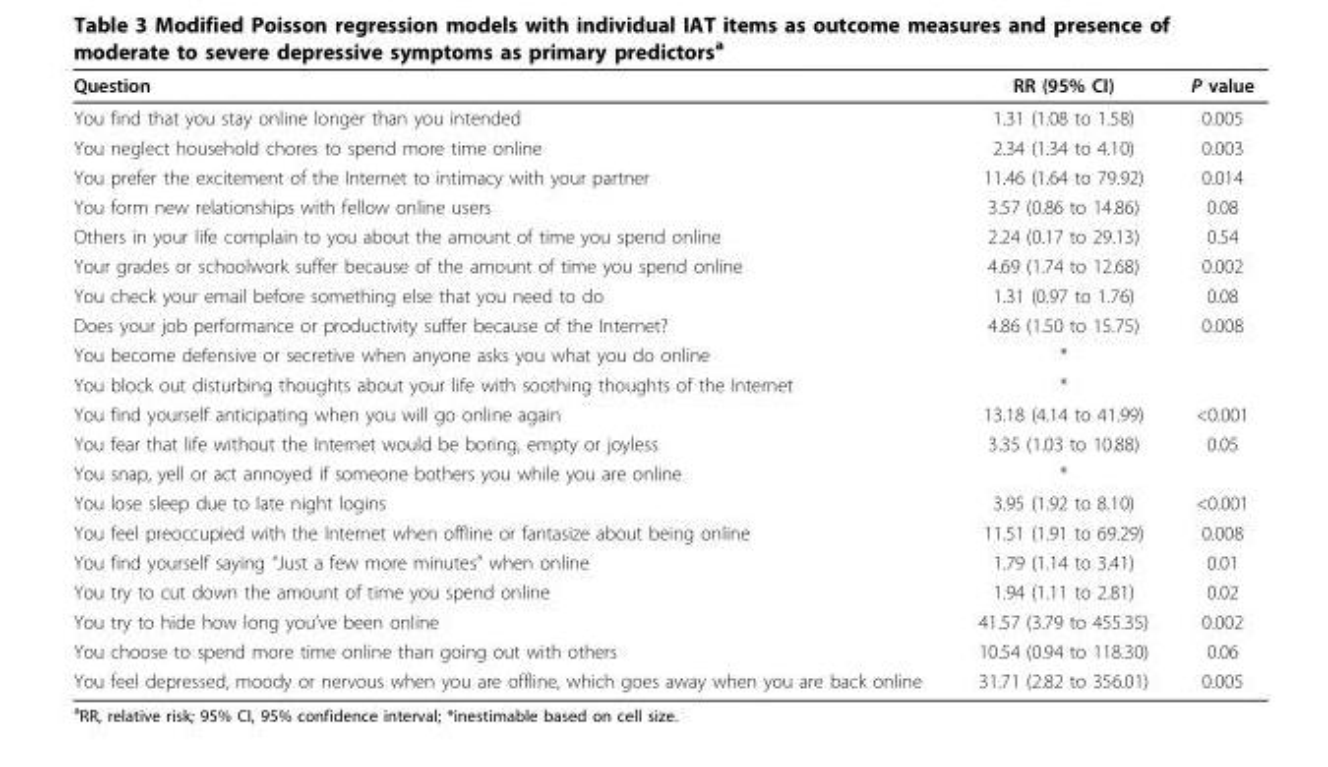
<table><thead><tr><td>Question</td><td>RR (95% CI)</td><td>P value</td></tr></thead><tbody><tr><td>You find that you stay online longer than you intended</td><td>1.31 (1.08 to 1.58)</td><td>0.005</td></tr><tr><td>You neglect household chores to spend more time online</td><td>2.34 (1.34 to 4.10)</td><td>0.003</td></tr><tr><td>You prefer the excitement of the Internet to intimacy with your partner</td><td>11.46 (1.64 to 79.92)</td><td>0.014</td></tr><tr><td>You form new relationships with fellow online users</td><td>3.57 (0.86 to 14.86)</td><td>0.08</td></tr><tr><td>Others in your life complain to you about the amount of time you spend online</td><td>2.24 (0.17 to 29.13)</td><td>0.54</td></tr><tr><td>Your grades or schoolwork suffer because of the amount of time you spend online</td><td>4.69 (1.74 to 12.68)</td><td>0.002</td></tr><tr><td>You check your email before something else that you need to do</td><td>1.31 (0.97 to 1.76)</td><td>0.08</td></tr><tr><td>Does your job performance or productivity suffer because of the Internet?</td><td>4.86 (1.50 to 15.75)</td><td>0.008</td></tr><tr><td>You become defensive or secretive when anyone asks you what you do online</td><td>*</td><td></td></tr><tr><td>You block out disturbing thoughts about your life with soothing thoughts of the Internet</td><td>*</td><td></td></tr><tr><td>You find yourself anticipating when you will go online again</td><td>13.18 (4.14 to 41.99)</td><td>&lt;0.001</td></tr><tr><td>You fear that life without the Internet would be boring, empty or joyless</td><td>3.35 (1.03 to 10.88)</td><td>0.05</td></tr><tr><td>You snap, yell or act annoyed if someone bothers you while you are online</td><td>*</td><td></td></tr><tr><td>You lose sleep due to late night logins</td><td>3.95 (1.92 to 8.10)</td><td>&lt;0.001</td></tr><tr><td>You feel preoccupied with the Internet when offline or fantasize about being online</td><td>11.51 (1.91 to 69.29)</td><td>0.008</td></tr><tr><td>You find yourself saying “Just a few more minutes” when online</td><td>1.79 (1.14 to 3.41)</td><td>0.01</td></tr><tr><td>You try to cut down the amount of time you spend online</td><td>1.94 (1.11 to 2.81)</td><td>0.02</td></tr><tr><td>You try to hide how long you’ve been online</td><td>41.57 (3.79 to 455.35)</td><td>0.002</td></tr><tr><td>You choose to spend more time online than going out with others</td><td>10.54 (0.94 to 118.30)</td><td>0.06</td></tr><tr><td>You feel depressed, moody or nervous when you are offline, which goes away when you are back online</td><td>31.71 (2.82 to 356.01)</td><td>0.005</td></tr></tbody></table>